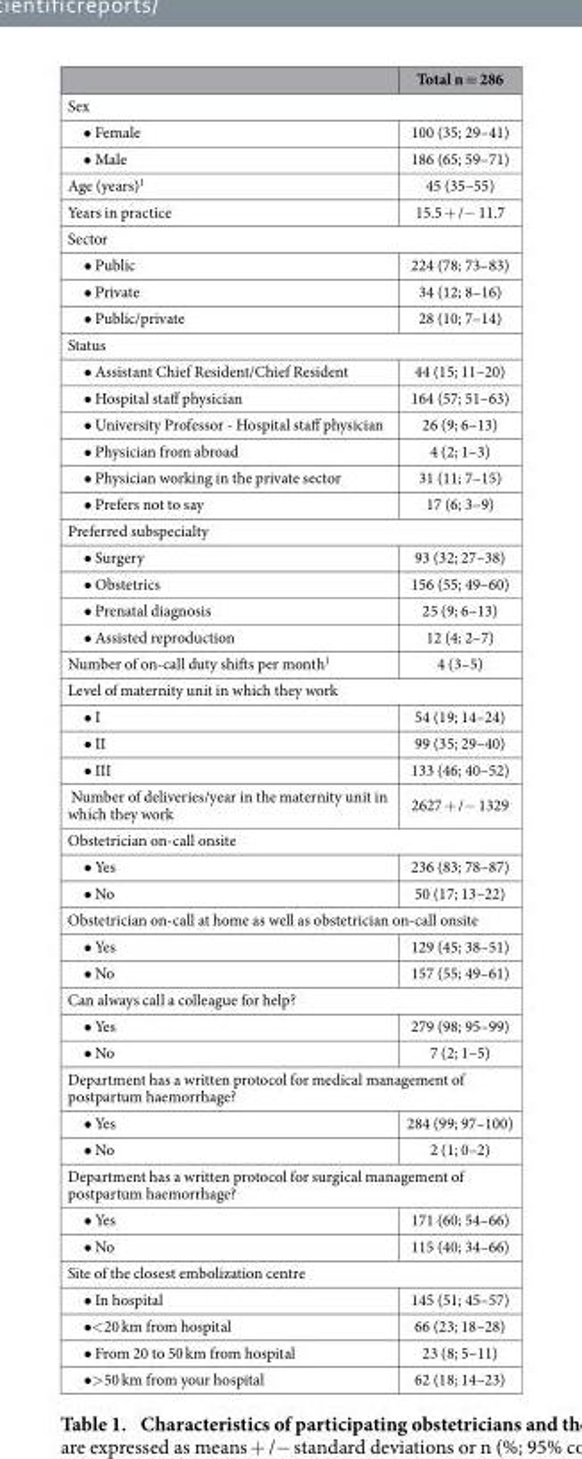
<table><thead><tr><td></td><td>Total n = 286</td></tr></thead><tbody><tr><td colspan="2">Sex</td></tr><tr><td>• Female</td><td>100 (35; 29–41)</td></tr><tr><td>• Male</td><td>186 (65; 59–71)</td></tr><tr><td>Age (years)<sup>1</sup></td><td>45 (35–55)</td></tr><tr><td>Years in practice</td><td>15.5 + /− 11.7</td></tr><tr><td colspan="2">Sector</td></tr><tr><td>• Public</td><td>224 (78; 73–83)</td></tr><tr><td>• Private</td><td>34 (12; 8–16)</td></tr><tr><td>• Public/private</td><td>28 (10; 7–14)</td></tr><tr><td colspan="2">Status</td></tr><tr><td>• Assistant Chief Resident/Chief Resident</td><td>44 (15; 11–20)</td></tr><tr><td>• Hospital staff physician</td><td>164 (57; 51–63)</td></tr><tr><td>• University Professor - Hospital staff physician</td><td>26 (9; 6–13)</td></tr><tr><td>• Physician from abroad</td><td>4 (2; 1–3)</td></tr><tr><td>• Physician working in the private sector</td><td>31 (11; 7–15)</td></tr><tr><td>• Prefers not to say</td><td>17 (6; 3–9)</td></tr><tr><td colspan="2">Preferred subspecialty</td></tr><tr><td>• Surgery</td><td>93 (32; 27–38)</td></tr><tr><td>• Obstetrics</td><td>156 (55; 49–60)</td></tr><tr><td>• Prenatal diagnosis</td><td>25 (9; 6–13)</td></tr><tr><td>• Assisted reproduction</td><td>12 (4; 2–7)</td></tr><tr><td>Number of on-call duty shifts per month<sup>1</sup></td><td>4 (3–5)</td></tr><tr><td colspan="2">Level of maternity unit in which they work</td></tr><tr><td>• I</td><td>54 (19; 14–24)</td></tr><tr><td>• II</td><td>99 (35; 29–40)</td></tr><tr><td>• III</td><td>133 (46; 40–52)</td></tr><tr><td>Number of deliveries/year in the maternity unit in which they work</td><td>2627 + /− 1329</td></tr><tr><td colspan="2">Obstetrician on-call onsite</td></tr><tr><td>• Yes</td><td>236 (83; 78–87)</td></tr><tr><td>• No</td><td>50 (17; 13–22)</td></tr><tr><td colspan="2">Obstetrician on-call at home as well as obstetrician on-call onsite</td></tr><tr><td>• Yes</td><td>129 (45; 38–51)</td></tr><tr><td>• No</td><td>157 (55; 49–61)</td></tr><tr><td colspan="2">Can always call a colleague for help?</td></tr><tr><td>• Yes</td><td>279 (98; 95–99)</td></tr><tr><td>• No</td><td>7 (2; 1–5)</td></tr><tr><td colspan="2">Department has a written protocol for medical management of postpartum haemorrhage?</td></tr><tr><td>• Yes</td><td>284 (99; 97–100)</td></tr><tr><td>• No</td><td>2 (1; 0–2)</td></tr><tr><td colspan="2">Department has a written protocol for surgical management of postpartum haemorrhage?</td></tr><tr><td>• Yes</td><td>171 (60; 54–66)</td></tr><tr><td>• No</td><td>115 (40; 34–66)</td></tr><tr><td colspan="2">Site of the closest embolization centre</td></tr><tr><td>• In hospital</td><td>145 (51; 45–57)</td></tr><tr><td>• &lt; 20 km from hospital</td><td>66 (23; 18–28)</td></tr><tr><td>• From 20 to 50 km from hospital</td><td>23 (8; 5–11)</td></tr><tr><td>• &gt; 50 km from your hospital</td><td>62 (18; 14–23)</td></tr></tbody></table>